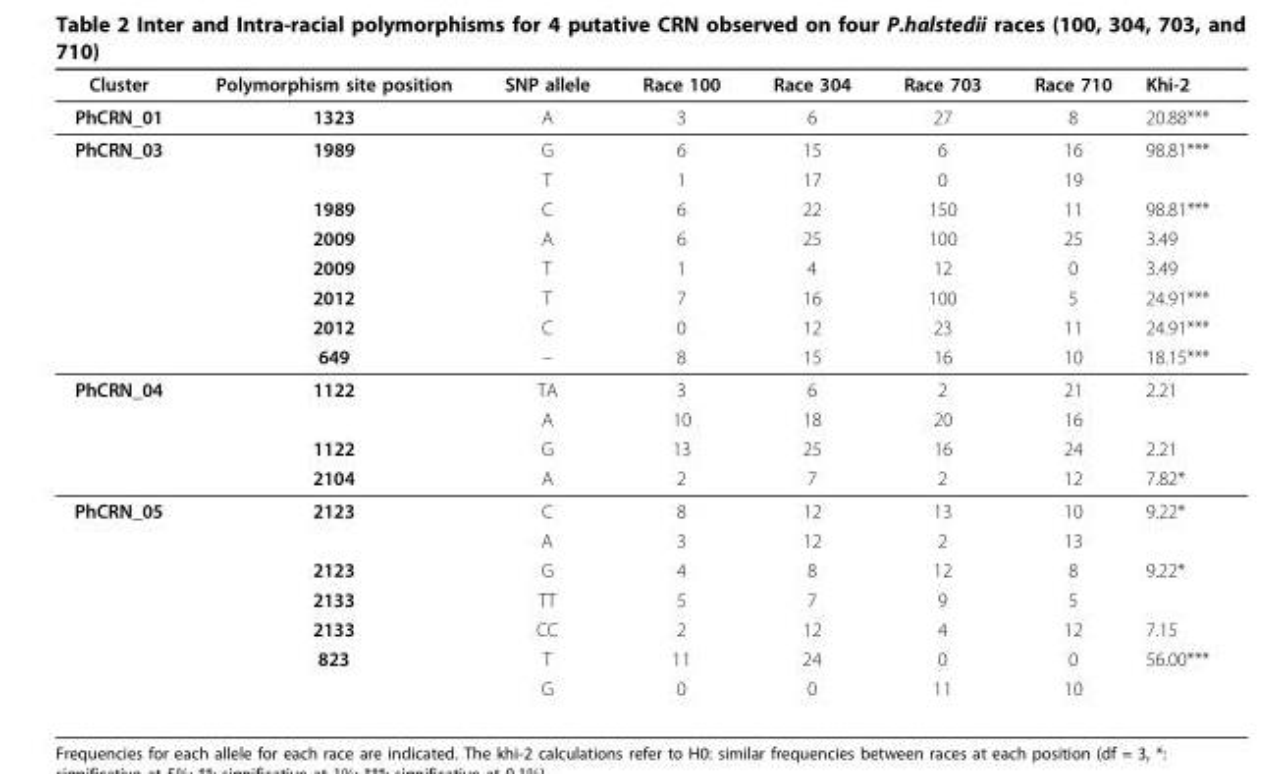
<table><thead><tr><td>Cluster</td><td>Polymorphism site position</td><td>SNP allele</td><td>Race 100</td><td>Race 304</td><td>Race 703</td><td>Race 710</td><td>Khi-2</td></tr></thead><tbody><tr><td>PhCRN_01</td><td>1323</td><td>A</td><td>3</td><td>6</td><td>27</td><td>8</td><td>20.88***</td></tr><tr><td rowspan="8">PhCRN_03</td><td>1989</td><td>G</td><td>6</td><td>15</td><td>6</td><td>16</td><td>98.81***</td></tr><tr><td></td><td>T</td><td>1</td><td>17</td><td>0</td><td>19</td><td></td></tr><tr><td>1989</td><td>C</td><td>6</td><td>22</td><td>150</td><td>11</td><td>98.81***</td></tr><tr><td>2009</td><td>A</td><td>6</td><td>25</td><td>100</td><td>25</td><td>3.49</td></tr><tr><td>2009</td><td>T</td><td>1</td><td>4</td><td>12</td><td>0</td><td>3.49</td></tr><tr><td>2012</td><td>T</td><td>7</td><td>16</td><td>100</td><td>5</td><td>24.91***</td></tr><tr><td>2012</td><td>C</td><td>0</td><td>12</td><td>23</td><td>11</td><td>24.91***</td></tr><tr><td>649</td><td>–</td><td>8</td><td>15</td><td>16</td><td>10</td><td>18.15***</td></tr><tr><td rowspan="4">PhCRN_04</td><td>1122</td><td>TA</td><td>3</td><td>6</td><td>2</td><td>21</td><td>2.21</td></tr><tr><td></td><td>A</td><td>10</td><td>18</td><td>20</td><td>16</td><td></td></tr><tr><td>1122</td><td>G</td><td>13</td><td>25</td><td>16</td><td>24</td><td>2.21</td></tr><tr><td>2104</td><td>A</td><td>2</td><td>7</td><td>2</td><td>12</td><td>7.82*</td></tr><tr><td rowspan="7">PhCRN_05</td><td>2123</td><td>C</td><td>8</td><td>12</td><td>13</td><td>10</td><td>9.22*</td></tr><tr><td></td><td>A</td><td>3</td><td>12</td><td>2</td><td>13</td><td></td></tr><tr><td>2123</td><td>G</td><td>4</td><td>8</td><td>12</td><td>8</td><td>9.22*</td></tr><tr><td>2133</td><td>TT</td><td>5</td><td>7</td><td>9</td><td>5</td><td></td></tr><tr><td>2133</td><td>CC</td><td>2</td><td>12</td><td>4</td><td>12</td><td>7.15</td></tr><tr><td>823</td><td>T</td><td>11</td><td>24</td><td>0</td><td>0</td><td>56.00***</td></tr><tr><td></td><td>G</td><td>0</td><td>0</td><td>11</td><td>10</td><td></td></tr></tbody></table>